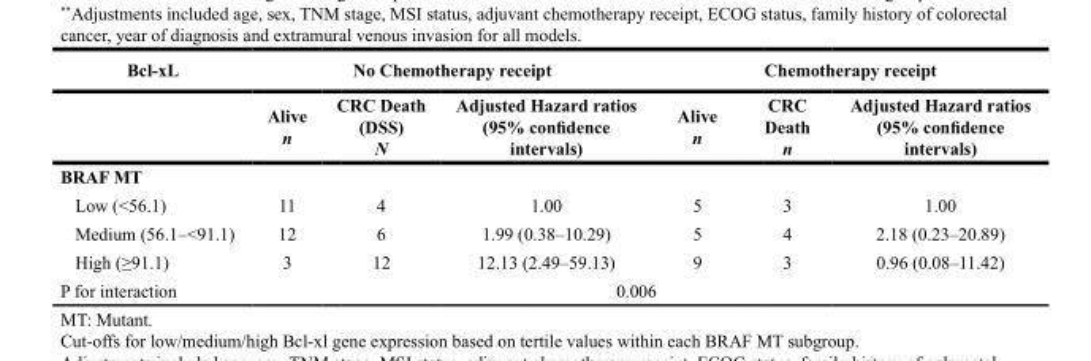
<table><thead><tr><td rowspan="2">Bcl-xL</td><td colspan="3">No Chemotherapy receipt</td><td colspan="3">Chemotherapy receipt</td></tr><tr><td>Alive n</td><td>CRC Death (DSS) N</td><td>Adjusted Hazard ratios (95% confidence intervals)</td><td>Alive n</td><td>CRC Death n</td><td>Adjusted Hazard ratios (95% confidence intervals)</td></tr></thead><tbody><tr><td colspan="7">BRAF MT</td></tr><tr><td>Low (&lt;56.1)</td><td>11</td><td>4</td><td>1.00</td><td>5</td><td>3</td><td>1.00</td></tr><tr><td>Medium (56.1–&lt;91.1)</td><td>12</td><td>6</td><td>1.99 (0.38–10.29)</td><td>5</td><td>4</td><td>2.18 (0.23–20.89)</td></tr><tr><td>High (≥91.1)</td><td>3</td><td>12</td><td>12.13 (2.49–59.13)</td><td>9</td><td>3</td><td>0.96 (0.08–11.42)</td></tr><tr><td>P for interaction</td><td></td><td></td><td colspan="3">0.006</td><td></td></tr></tbody></table>